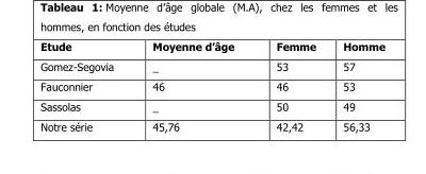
<table><thead><tr><td>Etude</td><td>Moyenne d’âge</td><td>Femme</td><td>Homme</td></tr></thead><tbody><tr><td>Gomez-Segovia</td><td>_</td><td>53</td><td>57</td></tr><tr><td>Fauconnier</td><td>46</td><td>46</td><td>53</td></tr><tr><td>Sassolas</td><td>_</td><td>50</td><td>49</td></tr><tr><td>Notre série</td><td>45,76</td><td>42,42</td><td>56,33</td></tr></tbody></table>